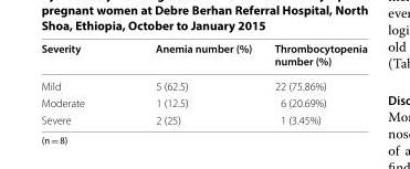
<table><thead><tr><td>Severity</td><td>Anemia number (%)</td><td>Thrombocytopenia number (%)</td></tr></thead><tbody><tr><td>Mild</td><td>5 (62.5)</td><td>22 (75.86%)</td></tr><tr><td>Moderate</td><td>1 (12.5)</td><td>6 (20.69%)</td></tr><tr><td>Severe</td><td>2 (25)</td><td>1 (3.45%)</td></tr></tbody></table>